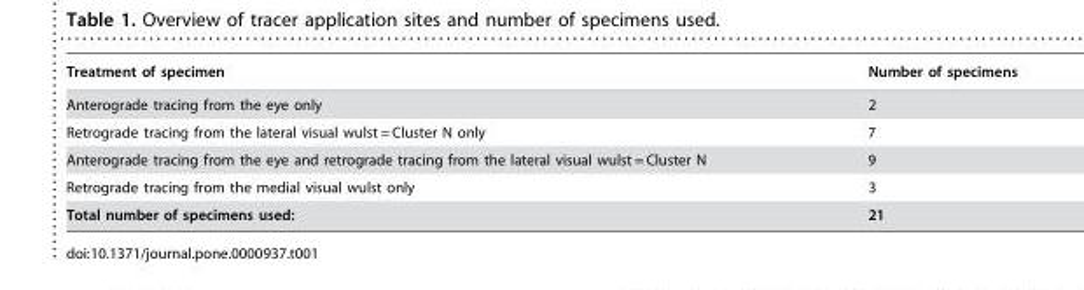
<table><thead><tr><td>Treatment of specimen</td><td>Number of specimens</td></tr></thead><tbody><tr><td>Anterograde tracing from the eye only</td><td>2</td></tr><tr><td>Retrograde tracing from the lateral visual wulst = Cluster N only</td><td>7</td></tr><tr><td>Anterograde tracing from the eye and retrograde tracing from the lateral visual wulst = Cluster N</td><td>9</td></tr><tr><td>Retrograde tracing from the medial visual wulst only</td><td>3</td></tr><tr><td>Total number of specimens used:</td><td>21</td></tr></tbody></table>